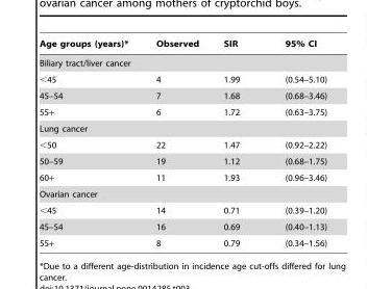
<table><thead><tr><td>Age groups (years)*</td><td>Observed</td><td>SIR</td><td>95% CI</td></tr></thead><tbody><tr><td colspan="4">Biliary tract/liver cancer</td></tr><tr><td>&lt;45</td><td>4</td><td>1.99</td><td>(0.54–5.10)</td></tr><tr><td>45–54</td><td>7</td><td>1.68</td><td>(0.68–3.46)</td></tr><tr><td>55+</td><td>6</td><td>1.72</td><td>(0.63–3.75)</td></tr><tr><td colspan="4">Lung cancer</td></tr><tr><td>&lt;50</td><td>22</td><td>1.47</td><td>(0.92–2.22)</td></tr><tr><td>50–59</td><td>19</td><td>1.12</td><td>(0.68–1.75)</td></tr><tr><td>60+</td><td>11</td><td>1.93</td><td>(0.96–3.46)</td></tr><tr><td colspan="4">Ovarian cancer</td></tr><tr><td>&lt;45</td><td>14</td><td>0.71</td><td>(0.39–1.20)</td></tr><tr><td>45–54</td><td>16</td><td>0.69</td><td>(0.40–1.13)</td></tr><tr><td>55+</td><td>8</td><td>0.79</td><td>(0.34–1.56)</td></tr></tbody></table>